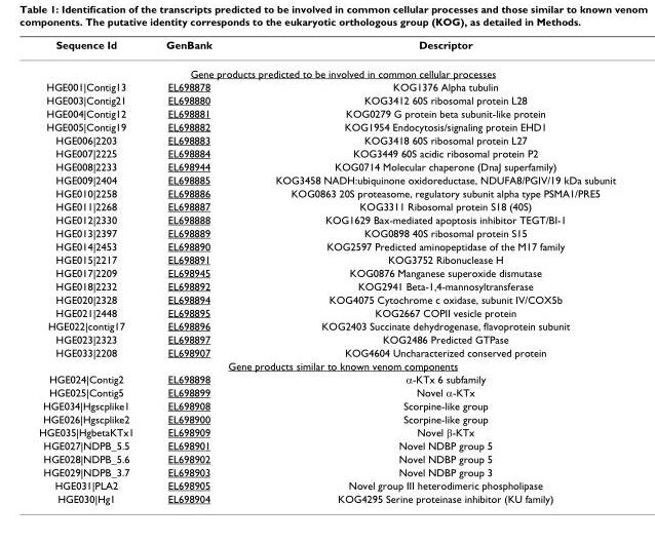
<table><thead><tr><td>Sequence Id</td><td>GenBank</td><td>Descriptor</td></tr></thead><tbody><tr><td colspan="3">Gene products predicted to be involved in common cellular processes</td></tr><tr><td>HGE001|Contig13</td><td>EL698878</td><td>KOG1376 Alpha tubulin</td></tr><tr><td>HGE003|Contig21</td><td>EL698880</td><td>KOG3412 60S ribosomal protein L28</td></tr><tr><td>HGE004|Contig12</td><td>EL698881</td><td>KOG0279 G protein beta subunit-like protein</td></tr><tr><td>HGE005|Contig19</td><td>EL698882</td><td>KOG1954 Endocytosis/signaling protein EHD1</td></tr><tr><td>HGE006|2203</td><td>EL698883</td><td>KOG3418 60S ribosomal protein L27</td></tr><tr><td>HGE007|2225</td><td>EL698884</td><td>KOG3449 60S acidic ribosomal protein P2</td></tr><tr><td>HGE008|2233</td><td>EL698944</td><td>KOG0714 Molecular chaperone (DnaJ superfamily)</td></tr><tr><td>HGE009|2404</td><td>EL698885</td><td>KOG3458 NADH:ubiquinone oxidoreductase, NDUFA8/PGIV/19 kDa subunit</td></tr><tr><td>HGE010|2258</td><td>EL698886</td><td>KOG0863 20S proteasome, regulatory subunit alpha type PSMA1/PRE5</td></tr><tr><td>HGE011|2268</td><td>EL698887</td><td>KOG3311 Ribosomal protein S18 (40S)</td></tr><tr><td>HGE012|2330</td><td>EL698888</td><td>KOG1629 Bax-mediated apoptosis inhibitor TEGT/BI-1</td></tr><tr><td>HGE013|2397</td><td>EL698889</td><td>KOG0898 40S ribosomal protein S15</td></tr><tr><td>HGE014|2453</td><td>EL698890</td><td>KOG2597 Predicted aminopeptidase of the M17 family</td></tr><tr><td>HGE015|2217</td><td>EL698891</td><td>KOG3752 Ribonuclease H</td></tr><tr><td>HGE017|2209</td><td>EL698945</td><td>KOG0876 Manganese superoxide dismutase</td></tr><tr><td>HGE018|2232</td><td>EL698892</td><td>KOG2941 Beta-1,4-mannosyltransferase</td></tr><tr><td>HGE020|2328</td><td>EL698894</td><td>KOG4075 Cytochrome c oxidase, subunit IV/COX5b</td></tr><tr><td>HGE021|2448</td><td>EL698895</td><td>KOG2667 COPII vesicle protein</td></tr><tr><td>HGE022|contig17</td><td>EL698896</td><td>KOG2403 Succinate dehydrogenase, flavoprotein subunit</td></tr><tr><td>HGE023|2323</td><td>EL698897</td><td>KOG2486 Predicted GTPase</td></tr><tr><td>HGE033|2208</td><td>EL698907</td><td>KOG4604 Uncharacterized conserved protein</td></tr><tr><td colspan="3">Gene products similar to known venom components</td></tr><tr><td>HGE024|Contig2</td><td>EL698898</td><td>α-KTx 6 subfamily</td></tr><tr><td>HGE025|Contig5</td><td>EL698899</td><td>Novel α-KTx</td></tr><tr><td>HGE034|Hgscplike1</td><td>EL698908</td><td>Scorpine-like group</td></tr><tr><td>HGE026|Hgscplike2</td><td>EL698900</td><td>Scorpine-like group</td></tr><tr><td>HGE035|HgbetaKTx1</td><td>EL698909</td><td>Novel β-KTx</td></tr><tr><td>HGE027|NDPB_5.5</td><td>EL698901</td><td>Novel NDBP group 5</td></tr><tr><td>HGE028|NDPB_5.6</td><td>EL698902</td><td>Novel NDBP group 5</td></tr><tr><td>HGE029|NDPB_3.7</td><td>EL698903</td><td>Novel NDBP group 3</td></tr><tr><td>HGE031|PLA2</td><td>EL698905</td><td>Novel group III heterodimeric phospholipase</td></tr><tr><td>HGE030|Hg1</td><td>EL698904</td><td>KOG4295 Serine proteinase inhibitor (KU family)</td></tr></tbody></table>